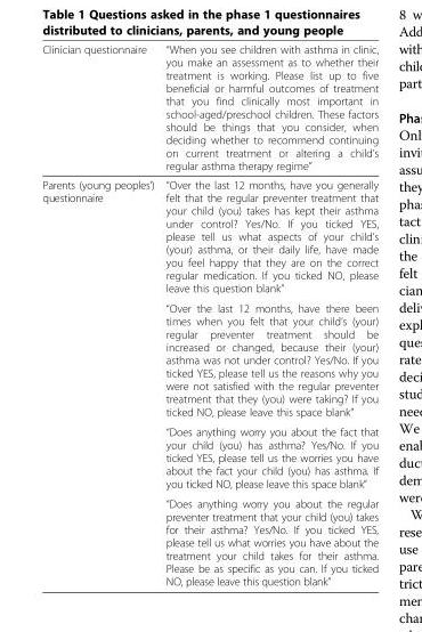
<table><thead><tr><td>Clinician questionnaire</td><td>“When you see children with asthma in clinic, you make an assessment as to whether their treatment is working. Please list up to five beneficial or harmful outcomes of treatment that you find clinically most important in school-aged/preschool children. These factors should be things that you consider, when deciding whether to recommend continuing on current treatment or altering a child’s regular asthma therapy regime”</td></tr></thead><tbody><tr><td rowspan="4">Parents (young peoples’) questionnaire</td><td>“Over the last 12 months, have you generally felt that the regular preventer treatment that your child (you) takes has kept their asthma under control? Yes/No. If you ticked YES, please tell us what aspects of your child’s (your) asthma, or their daily life, have made you feel happy that they are on the correct regular medication. If you ticked NO, please leave this question blank”</td></tr><tr><td>“Over the last 12 months, have there been times when you felt that your child’s (your) regular preventer treatment should be increased or changed, because their (your) asthma was not under control? Yes/No. If you ticked YES, please tell us the reasons why you were not satisfied with the regular preventer treatment that they (you) were taking? If you ticked NO, please leave this space blank”</td></tr><tr><td>“Does anything worry you about the fact that your child (you) has asthma? Yes/No. If you ticked YES, please tell us the worries you have about the fact your child (you) has asthma. If you ticked NO, please leave this space blank”</td></tr><tr><td>“Does anything worry you about the regular preventer treatment that your child (you) takes for their asthma? Yes/No. If you ticked YES, please tell us what worries you have about the treatment your child takes for their asthma. Please be as specific as you can. If you ticked NO, please leave this question blank”</td></tr></tbody></table>